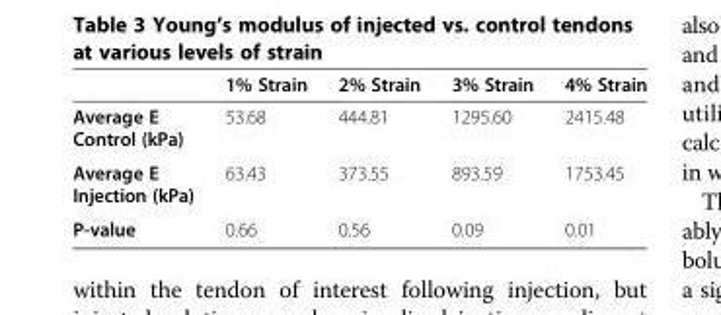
<table><thead><tr><td></td><td>1% Strain</td><td>2% Strain</td><td>3% Strain</td><td>4% Strain</td></tr></thead><tbody><tr><td>Average E Control (kPa)</td><td>53.68</td><td>444.81</td><td>1295.60</td><td>2415.48</td></tr><tr><td>Average E Injection (kPa)</td><td>63.43</td><td>373.55</td><td>893.59</td><td>1753.45</td></tr><tr><td>P-value</td><td>0.66</td><td>0.56</td><td>0.09</td><td>0.01</td></tr></tbody></table>